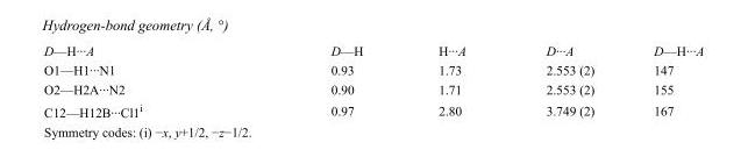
<table><tbody><tr><td>D—H···A</td><td>D—H</td><td>H···A</td><td>D···A</td><td>D—H···A</td></tr><tr><td>O1—H1···N1</td><td>0.93</td><td>1.73</td><td>2.553 (2)</td><td>147</td></tr><tr><td>O2—H2A···N2</td><td>0.90</td><td>1.71</td><td>2.553 (2)</td><td>155</td></tr><tr><td>C12—H12B···Cl1<sup>i</sup></td><td>0.97</td><td>2.80</td><td>3.749 (2)</td><td>167</td></tr></tbody></table>